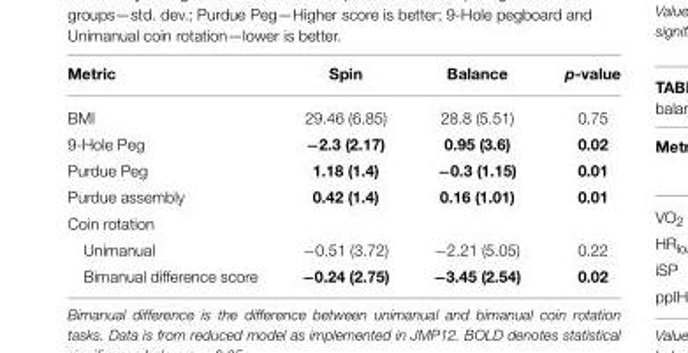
<table><thead><tr><td>Metric</td><td>Spin</td><td>Balance</td><td>p-value</td></tr></thead><tbody><tr><td>BMI</td><td>29.46 (6.85)</td><td>28.8 (5.51)</td><td>0.75</td></tr><tr><td>9-Hole Peg</td><td>−2.3 (2.17)</td><td>0.95 (3.6)</td><td>0.02</td></tr><tr><td>Purdue Peg</td><td>1.18 (1.4)</td><td>−0.3 (1.15)</td><td>0.01</td></tr><tr><td>Purdue assembly</td><td>0.42 (1.4)</td><td>0.16 (1.01)</td><td>0.01</td></tr><tr><td colspan="4">Coin rotation</td></tr><tr><td>Unimanual</td><td>−0.51 (3.72)</td><td>−2.21 (5.05)</td><td>0.22</td></tr><tr><td>Bimanual difference score</td><td>−0.24 (2.75)</td><td>−3.45 (2.54)</td><td>0.02</td></tr></tbody></table>